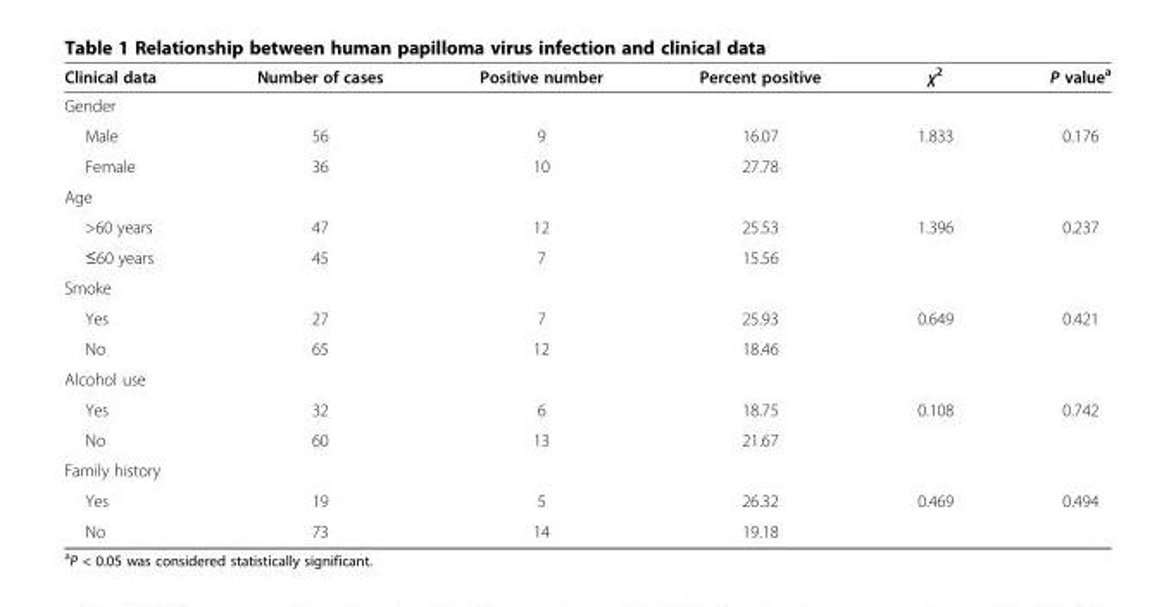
<table><thead><tr><td>Clinical data</td><td>Number of cases</td><td>Positive number</td><td>Percent positive</td><td>χ<sup>2</sup></td><td>P value<sup>a</sup></td></tr></thead><tbody><tr><td colspan="6">Gender</td></tr><tr><td>Male</td><td>56</td><td>9</td><td>16.07</td><td>1.833</td><td>0.176</td></tr><tr><td>Female</td><td>36</td><td>10</td><td>27.78</td><td></td><td></td></tr><tr><td colspan="6">Age</td></tr><tr><td>&gt;60 years</td><td>47</td><td>12</td><td>25.53</td><td>1.396</td><td>0.237</td></tr><tr><td>≤60 years</td><td>45</td><td>7</td><td>15.56</td><td></td><td></td></tr><tr><td colspan="6">Smoke</td></tr><tr><td>Yes</td><td>27</td><td>7</td><td>25.93</td><td>0.649</td><td>0.421</td></tr><tr><td>No</td><td>65</td><td>12</td><td>18.46</td><td></td><td></td></tr><tr><td colspan="6">Alcohol use</td></tr><tr><td>Yes</td><td>32</td><td>6</td><td>18.75</td><td>0.108</td><td>0.742</td></tr><tr><td>No</td><td>60</td><td>13</td><td>21.67</td><td></td><td></td></tr><tr><td colspan="6">Family history</td></tr><tr><td>Yes</td><td>19</td><td>5</td><td>26.32</td><td>0.469</td><td>0.494</td></tr><tr><td>No</td><td>73</td><td>14</td><td>19.18</td><td></td><td></td></tr></tbody></table>